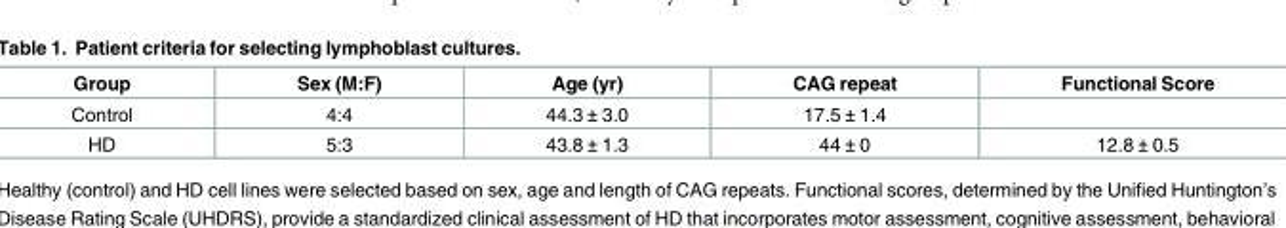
<table><thead><tr><td>Group</td><td>Sex (M:F)</td><td>Age (yr)</td><td>CAG repeat</td><td>Functional Score</td></tr></thead><tbody><tr><td>Control</td><td>4:4</td><td>44.3 ± 3.0</td><td>17.5 ± 1.4</td><td></td></tr><tr><td>HD</td><td>5:3</td><td>43.8 ± 1.3</td><td>44 ± 0</td><td>12.8 ± 0.5</td></tr></tbody></table>